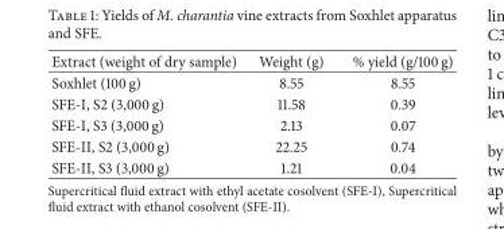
<table><thead><tr><td>Extract (weight of dry sample)</td><td>Weight (g)</td><td>% yield (g/100 g)</td></tr></thead><tbody><tr><td>Soxhlet (100 g)</td><td>8.55</td><td>8.55</td></tr><tr><td>SFE-I, S2 (3,000 g)</td><td>11.58</td><td>0.39</td></tr><tr><td>SFE-I, S3 (3,000 g)</td><td>2.13</td><td>0.07</td></tr><tr><td>SFE-II, S2 (3,000 g)</td><td>22.25</td><td>0.74</td></tr><tr><td>SFE-II, S3 (3,000 g)</td><td>1.21</td><td>0.04</td></tr></tbody></table>